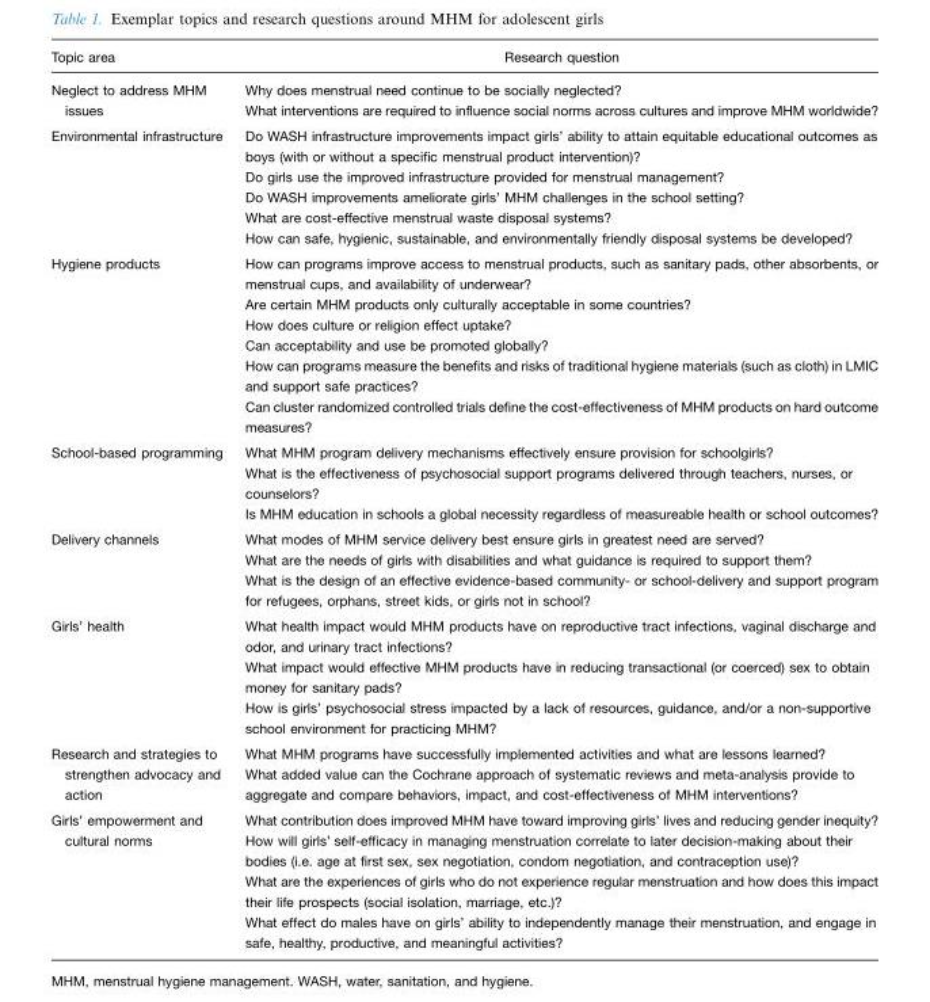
<table><thead><tr><td>Topic area</td><td>Research question</td></tr></thead><tbody><tr><td>Neglect to address MHM issues</td><td>Why does menstrual need continue to be socially neglected? What interventions are required to influence social norms across cultures and improve MHM worldwide?</td></tr><tr><td rowspan="2">Environmental infrastructure</td><td>Do WASH infrastructure improvements impact girls’ ability to attain equitable educational outcomes as boys (with or without a specific menstrual product intervention)? Do girls use the improved infrastructure provided for menstrual management? Do WASH improvements ameliorate girls’ MHM challenges in the school setting?</td></tr><tr><td>What are cost-effective menstrual waste disposal systems? How can safe, hygienic, sustainable, and environmentally friendly disposal systems be developed?</td></tr><tr><td rowspan="3">Hygiene products</td><td>How can programs improve access to menstrual products, such as sanitary pads, other absorbents, or menstrual cups, and availability of underwear? Are certain MHM products only culturally acceptable in some countries? How does culture or religion effect uptake? Can acceptability and use be promoted globally?</td></tr><tr><td>How can programs measure the benefits and risks of traditional hygiene materials (such as cloth) in LMIC and support safe practices?</td></tr><tr><td>Can cluster randomized controlled trials define the cost-effectiveness of MHM products on hard outcome measures?</td></tr><tr><td rowspan="3">School-based programming</td><td>What MHM program delivery mechanisms effectively ensure provision for schoolgirls?</td></tr><tr><td>What is the effectiveness of psychosocial support programs delivered through teachers, nurses, or counselors?</td></tr><tr><td>Is MHM education in schools a global necessity regardless of measureable health or school outcomes?</td></tr><tr><td rowspan="3">Delivery channels</td><td>What modes of MHM service delivery best ensure girls in greatest need are served?</td></tr><tr><td>What are the needs of girls with disabilities and what guidance is required to support them?</td></tr><tr><td>What is the design of an effective evidence-based community- or school-delivery and support program for refugees, orphans, street kids, or girls not in school?</td></tr><tr><td rowspan="3">Girls’ health</td><td>What health impact would MHM products have on reproductive tract infections, vaginal discharge and odor, and urinary tract infections?</td></tr><tr><td>What impact would effective MHM products have in reducing transactional (or coerced) sex to obtain money for sanitary pads?</td></tr><tr><td>How is girls’ psychosocial stress impacted by a lack of resources, guidance, and/or a non-supportive school environment for practicing MHM?</td></tr><tr><td>Research and strategies to strengthen advocacy and action</td><td>What MHM programs have successfully implemented activities and what are lessons learned? What added value can the Cochrane approach of systematic reviews and meta-analysis provide to aggregate and compare behaviors, impact, and cost-effectiveness of MHM interventions?</td></tr><tr><td rowspan="2">Girls’ empowerment and cultural norms</td><td>What contribution does improved MHM have toward improving girls’ lives and reducing gender inequity? How will girls’ self-efficacy in managing menstruation correlate to later decision-making about their bodies (i.e. age at first sex, sex negotiation, condom negotiation, and contraception use)?</td></tr><tr><td>What are the experiences of girls who do not experience regular menstruation and how does this impact their life prospects (social isolation, marriage, etc.)? What effect do males have on girls’ ability to independently manage their menstruation, and engage in safe, healthy, productive, and meaningful activities?</td></tr></tbody></table>